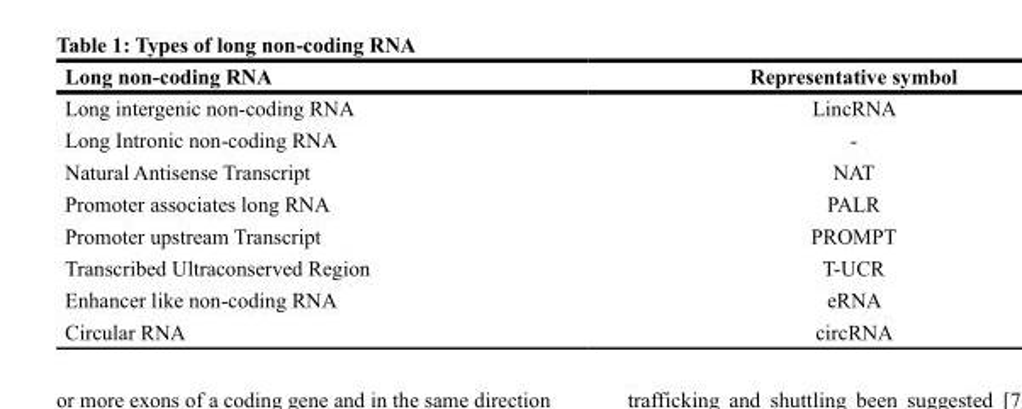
<table><thead><tr><td>Long non-coding RNA</td><td>Representative symbol</td></tr></thead><tbody><tr><td>Long intergenic non-coding RNA</td><td>LincRNA</td></tr><tr><td>Long Intronic non-coding RNA</td><td>-</td></tr><tr><td>Natural Antisense Transcript</td><td>NAT</td></tr><tr><td>Promoter associates long RNA</td><td>PALR</td></tr><tr><td>Promoter upstream Transcript</td><td>PROMPT</td></tr><tr><td>Transcribed Ultraconserved Region</td><td>T-UCR</td></tr><tr><td>Enhancer like non-coding RNA</td><td>eRNA</td></tr><tr><td>Circular RNA</td><td>circRNA</td></tr></tbody></table>